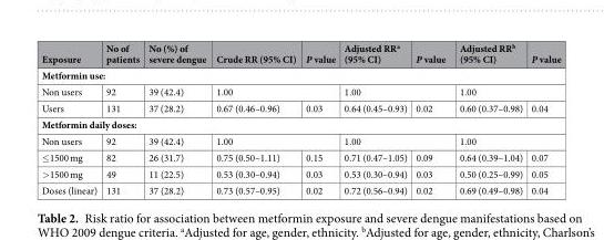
<table><thead><tr><td>Exposure</td><td>No of patients</td><td>No (%) of severe dengue</td><td>Crude RR (95% CI)</td><td>P value</td><td>Adjusted RR<sup>a</sup> (95% CI)</td><td>P value</td><td>Adjusted RR<sup>b</sup> (95% CI)</td><td>P value</td></tr></thead><tbody><tr><td colspan="9">Metformin use:</td></tr><tr><td>Non users</td><td>92</td><td>39 (42.4)</td><td colspan="2">1.00</td><td colspan="2">1.00</td><td colspan="2">1.00</td></tr><tr><td>Users</td><td>131</td><td>37 (28.2)</td><td>0.67 (0.46–0.96)</td><td>0.03</td><td>0.64 (0.45–0.93)</td><td>0.02</td><td>0.60 (0.37–0.98)</td><td>0.04</td></tr><tr><td colspan="9">Metformin daily doses:</td></tr><tr><td>Non users</td><td>92</td><td>39 (42.4)</td><td colspan="2">1.00</td><td colspan="2">1.00</td><td colspan="2">1.00</td></tr><tr><td>≤1500 mg</td><td>82</td><td>26 (31.7)</td><td>0.75 (0.50–1.11)</td><td>0.15</td><td>0.71 (0.47–1.05)</td><td>0.09</td><td>0.64 (0.39–1.04)</td><td>0.07</td></tr><tr><td>&gt;1500 mg</td><td>49</td><td>11 (22.5)</td><td>0.53 (0.30–0.94)</td><td>0.03</td><td>0.53 (0.30–0.94)</td><td>0.03</td><td>0.50 (0.25–0.99)</td><td>0.05</td></tr><tr><td>Doses (linear)</td><td>131</td><td>37 (28.2)</td><td>0.73 (0.57–0.95)</td><td>0.02</td><td>0.72 (0.56–0.94)</td><td>0.02</td><td>0.69 (0.49–0.98)</td><td>0.04</td></tr></tbody></table>